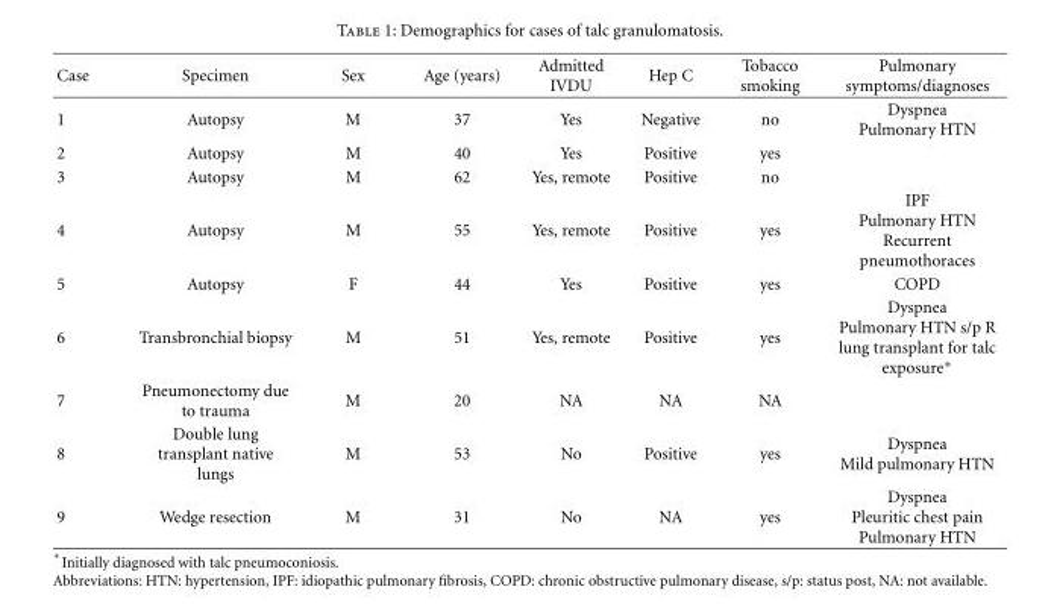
<table><thead><tr><td>Case</td><td>Specimen</td><td>Sex</td><td>Age (years)</td><td>Admitted IVDU</td><td>Hep C</td><td>Tobacco smoking</td><td>Pulmonary symptoms/diagnoses</td></tr></thead><tbody><tr><td>1</td><td>Autopsy</td><td>M</td><td>37</td><td>Yes</td><td>Negative</td><td>no</td><td>Dyspnea Pulmonary HTN</td></tr><tr><td>2</td><td>Autopsy</td><td>M</td><td>40</td><td>Yes</td><td>Positive</td><td>yes</td><td></td></tr><tr><td>3</td><td>Autopsy</td><td>M</td><td>62</td><td>Yes, remote</td><td>Positive</td><td>no</td><td></td></tr><tr><td>4</td><td>Autopsy</td><td>M</td><td>55</td><td>Yes, remote</td><td>Positive</td><td>yes</td><td>IPF Pulmonary HTN Recurrent pneumothoraces</td></tr><tr><td>5</td><td>Autopsy</td><td>F</td><td>44</td><td>Yes</td><td>Positive</td><td>yes</td><td>COPD</td></tr><tr><td>6</td><td>Transbronchial biopsy</td><td>M</td><td>51</td><td>Yes, remote</td><td>Positive</td><td>yes</td><td>Dyspnea Pulmonary HTN s/p R lung transplant for talc exposure∗</td></tr><tr><td>7</td><td>Pneumonectomy due to trauma</td><td>M</td><td>20</td><td>NA</td><td>NA</td><td>NA</td><td></td></tr><tr><td>8</td><td>Double lung transplant native lungs</td><td>M</td><td>53</td><td>No</td><td>Positive</td><td>yes</td><td>Dyspnea Mild pulmonary HTN</td></tr><tr><td>9</td><td>Wedge resection</td><td>M</td><td>31</td><td>No</td><td>NA</td><td>yes</td><td>Dyspnea Pleuritic chest pain Pulmonary HTN</td></tr></tbody></table>